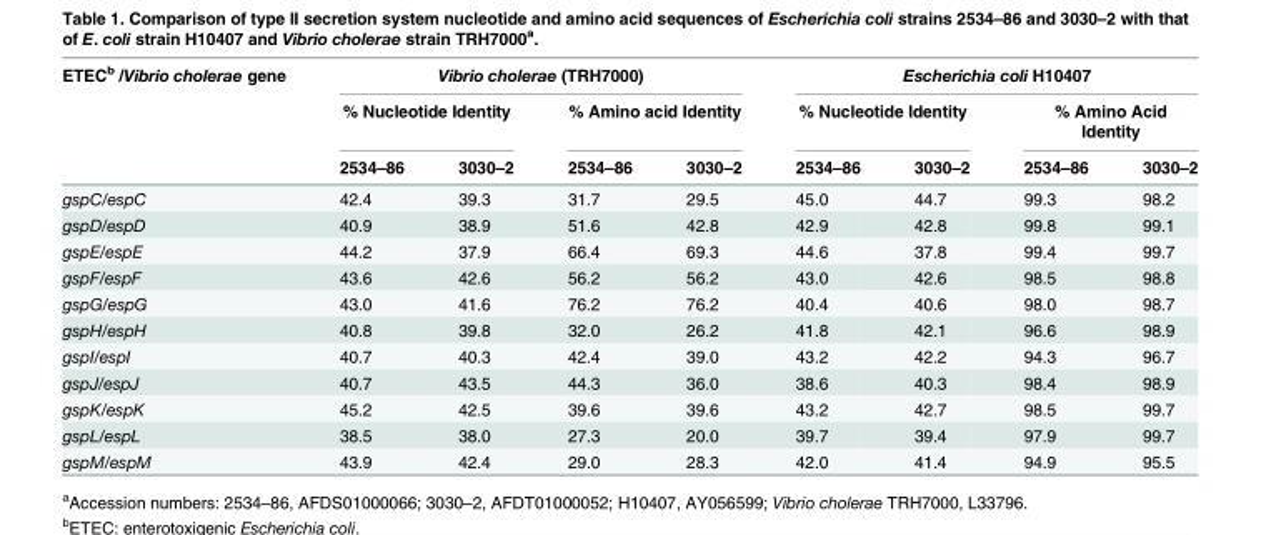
<table><thead><tr><td rowspan="3">ETEC<sup>b</sup> /Vibrio cholerae gene</td><td colspan="4">Vibrio cholerae (TRH7000)</td><td colspan="4">Escherichia coli H10407</td></tr><tr><td colspan="2">% Nucleotide Identity</td><td colspan="2">% Amino acid Identity</td><td colspan="2">% Nucleotide Identity</td><td colspan="2">% Amino Acid Identity</td></tr><tr><td>2534–86</td><td>3030–2</td><td>2534–86</td><td>3030–2</td><td>2534–86</td><td>3030–2</td><td>2534–86</td><td>3030–2</td></tr></thead><tbody><tr><td>gspC/espC</td><td>42.4</td><td>39.3</td><td>31.7</td><td>29.5</td><td>45.0</td><td>44.7</td><td>99.3</td><td>98.2</td></tr><tr><td>gspD/espD</td><td>40.9</td><td>38.9</td><td>51.6</td><td>42.8</td><td>42.9</td><td>42.8</td><td>99.8</td><td>99.1</td></tr><tr><td>gspE/espE</td><td>44.2</td><td>37.9</td><td>66.4</td><td>69.3</td><td>44.6</td><td>37.8</td><td>99.4</td><td>99.7</td></tr><tr><td>gspF/espF</td><td>43.6</td><td>42.6</td><td>56.2</td><td>56.2</td><td>43.0</td><td>42.6</td><td>98.5</td><td>98.8</td></tr><tr><td>gspG/espG</td><td>43.0</td><td>41.6</td><td>76.2</td><td>76.2</td><td>40.4</td><td>40.6</td><td>98.0</td><td>98.7</td></tr><tr><td>gspH/espH</td><td>40.8</td><td>39.8</td><td>32.0</td><td>26.2</td><td>41.8</td><td>42.1</td><td>96.6</td><td>98.9</td></tr><tr><td>gspI/espI</td><td>40.7</td><td>40.3</td><td>42.4</td><td>39.0</td><td>43.2</td><td>42.2</td><td>94.3</td><td>96.7</td></tr><tr><td>gspJ/espJ</td><td>40.7</td><td>43.5</td><td>44.3</td><td>36.0</td><td>38.6</td><td>40.3</td><td>98.4</td><td>98.9</td></tr><tr><td>gspK/espK</td><td>45.2</td><td>42.5</td><td>39.6</td><td>39.6</td><td>43.2</td><td>42.7</td><td>98.5</td><td>99.7</td></tr><tr><td>gspL/espL</td><td>38.5</td><td>38.0</td><td>27.3</td><td>20.0</td><td>39.7</td><td>39.4</td><td>97.9</td><td>99.7</td></tr><tr><td>gspM/espM</td><td>43.9</td><td>42.4</td><td>29.0</td><td>28.3</td><td>42.0</td><td>41.4</td><td>94.9</td><td>95.5</td></tr></tbody></table>